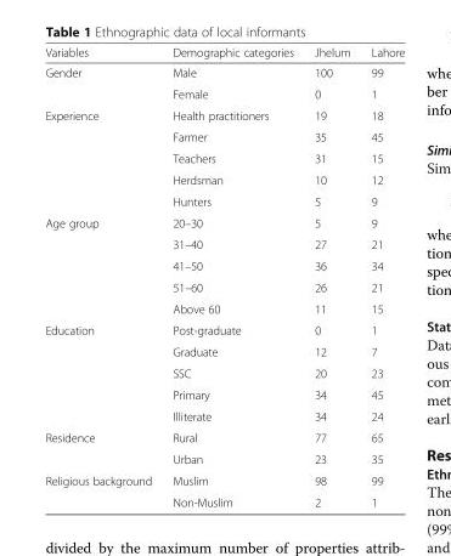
<table><thead><tr><td>Variables</td><td>Demographic categories</td><td>Jhelum</td><td>Lahore</td></tr></thead><tbody><tr><td rowspan="2">Gender</td><td>Male</td><td>100</td><td>99</td></tr><tr><td>Female</td><td>0</td><td>1</td></tr><tr><td rowspan="5">Experience</td><td>Health practitioners</td><td>19</td><td>18</td></tr><tr><td>Farmer</td><td>35</td><td>45</td></tr><tr><td>Teachers</td><td>31</td><td>15</td></tr><tr><td>Herdsman</td><td>10</td><td>12</td></tr><tr><td>Hunters</td><td>5</td><td>9</td></tr><tr><td rowspan="5">Age group</td><td>20–30</td><td>5</td><td>9</td></tr><tr><td>31–40</td><td>27</td><td>21</td></tr><tr><td>41–50</td><td>36</td><td>34</td></tr><tr><td>51–60</td><td>26</td><td>21</td></tr><tr><td>Above 60</td><td>11</td><td>15</td></tr><tr><td rowspan="5">Education</td><td>Post-graduate</td><td>0</td><td>1</td></tr><tr><td>Graduate</td><td>12</td><td>7</td></tr><tr><td>SSC</td><td>20</td><td>23</td></tr><tr><td>Primary</td><td>34</td><td>45</td></tr><tr><td>Illiterate</td><td>34</td><td>24</td></tr><tr><td rowspan="2">Residence</td><td>Rural</td><td>77</td><td>65</td></tr><tr><td>Urban</td><td>23</td><td>35</td></tr><tr><td rowspan="2">Religious background</td><td>Muslim</td><td>98</td><td>99</td></tr><tr><td>Non-Muslim</td><td>2</td><td>1</td></tr></tbody></table>